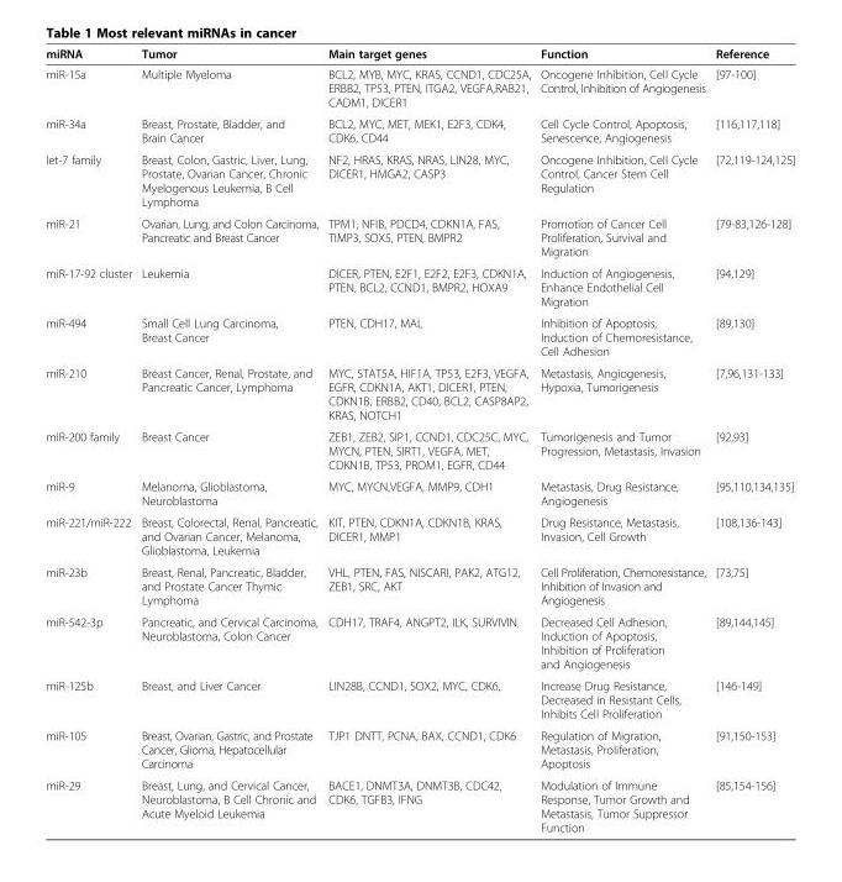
<table><thead><tr><td>miRNA</td><td>Tumor</td><td>Main target genes</td><td>Function</td><td>Reference</td></tr></thead><tbody><tr><td>miR-15a</td><td>Multiple Myeloma</td><td>BCL2, MYB, MYC, KRAS, CCND1, CDC25A, ERBB2, TP53, PTEN, ITGA2, VEGFA,RAB21, CADM1, DICER1</td><td>Oncogene Inhibition, Cell Cycle Control, Inhibition of Angiogenesis</td><td>[97-100]</td></tr><tr><td>miR-34a</td><td>Breast, Prostate, Bladder, and Brain Cancer</td><td>BCL2, MYC, MET, MEK1, E2F3, CDK4, CDK6, CD44</td><td>Cell Cycle Control, Apoptosis, Senescence, Angiogenesis</td><td>[116,117,118]</td></tr><tr><td>let-7 family</td><td>Breast, Colon, Gastric, Liver, Lung, Prostate, Ovarian Cancer, Chronic Myelogenous Leukemia, B Cell Lymphoma</td><td>NF2, HRAS, KRAS, NRAS, LIN28, MYC, DICER1, HMGA2, CASP3</td><td>Oncogene Inhibition, Cell Cycle Control, Cancer Stem Cell Regulation</td><td>[72,119-124,125]</td></tr><tr><td>miR-21</td><td>Ovarian, Lung, and Colon Carcinoma, Pancreatic and Breast Cancer</td><td>TPM1, NFIB, PDCD4, CDKN1A, FAS, TIMP3, SOX5, PTEN, BMPR2</td><td>Promotion of Cancer Cell Proliferation, Survival and Migration</td><td>[79-83,126-128]</td></tr><tr><td>miR-17-92 cluster</td><td>Leukemia</td><td>DICER, PTEN, E2F1, E2F2, E2F3, CDKN1A, PTEN, BCL2, CCND1, BMPR2, HOXA9</td><td>Induction of Angiogenesis, Enhance Endothelial Cell Migration</td><td>[94,129]</td></tr><tr><td>miR-494</td><td>Small Cell Lung Carcinoma, Breast Cancer</td><td>PTEN, CDH17, MAL</td><td>Inhibition of Apoptosis, Induction of Chemoresistance, Cell Adhesion</td><td>[89,130]</td></tr><tr><td>miR-210</td><td>Breast Cancer, Renal, Prostate, and Pancreatic Cancer, Lymphoma</td><td>MYC, STAT5A, HIF1A, TP53, E2F3, VEGFA, EGFR, CDKN1A, AKT1, DICER1, PTEN, CDKN1B, ERBB2, CD40, BCL2, CASP8AP2, KRAS, NOTCH1</td><td>Metastasis, Angiogenesis, Hypoxia, Tumorigenesis</td><td>[7,96,131-133]</td></tr><tr><td>miR-200 family</td><td>Breast Cancer</td><td>ZEB1, ZEB2, SIP1, CCND1, CDC25C, MYC, MYCN, PTEN, SIRT1, VEGFA, MET, CDKN1B, TP53, PROM1, EGFR, CD44</td><td>Tumorigenesis and Tumor Progression, Metastasis, Invasion</td><td>[92,93]</td></tr><tr><td>miR-9</td><td>Melanoma, Glioblastoma, Neuroblastoma</td><td>MYC, MYCN,VEGFA, MMP9, CDH1</td><td>Metastasis, Drug Resistance, Angiogenesis</td><td>[95,110,134,135]</td></tr><tr><td>miR-221/miR-222</td><td>Breast, Colorectal, Renal, Pancreatic, and Ovarian Cancer, Melanoma, Glioblastoma, Leukemia</td><td>KIT, PTEN, CDKN1A, CDKN1B, KRAS, DICER1, MMP1</td><td>Drug Resistance, Metastasis, Invasion, Cell Growth</td><td>[108,136-143]</td></tr><tr><td>miR-23b</td><td>Breast, Renal, Pancreatic, Bladder, and Prostate Cancer Thymic Lymphoma</td><td>VHL, PTEN, FAS, NISCARI, PAK2, ATG12, ZEB1, SRC, AKT</td><td>Cell Proliferation, Chemoresistance, Inhibition of Invasion and Angiogenesis</td><td>[73,75]</td></tr><tr><td>miR-542-3p</td><td>Pancreatic, and Cervical Carcinoma, Neuroblastoma, Colon Cancer</td><td>CDH17, TRAF4, ANGPT2, ILK, SURVIVIN</td><td>Decreased Cell Adhesion, Induction of Apoptosis, Inhibition of Proliferation and Angiogenesis</td><td>[89,144,145]</td></tr><tr><td>miR-125b</td><td>Breast, and Liver Cancer</td><td>LIN28B, CCND1, SOX2, MYC, CDK6,</td><td>Increase Drug Resistance, Decreased in Resistant Cells, Inhibits Cell Proliferation</td><td>[146-149]</td></tr><tr><td>miR-105</td><td>Breast, Ovarian, Gastric, and Prostate Cancer, Glioma, Hepatocellular Carcinoma</td><td>TJP1 DNTT, PCNA, BAX, CCND1, CDK6</td><td>Regulation of Migration, Metastasis, Proliferation, Apoptosis</td><td>[91,150-153]</td></tr><tr><td>miR-29</td><td>Breast, Lung, and Cervical Cancer, Neuroblastoma, B Cell Chronic and Acute Myeloid Leukemia</td><td>BACE1, DNMT3A, DNMT3B, CDC42, CDK6, TGFB3, IFNG</td><td>Modulation of Immune Response, Tumor Growth and Metastasis, Tumor Suppressor Function</td><td>[85,154-156]</td></tr></tbody></table>